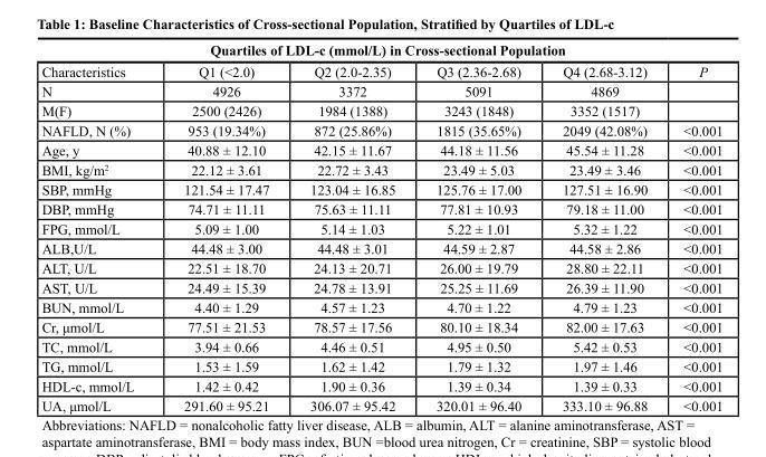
<table><thead><tr><td colspan="6">Quartiles of LDL-c (mmol/L) in Cross-sectional Population</td></tr><tr><td>Characteristics</td><td>Q1 (&lt;2.0)</td><td>Q2 (2.0-2.35)</td><td>Q3 (2.36-2.68)</td><td>Q4 (2.68-3.12)</td><td>P</td></tr></thead><tbody><tr><td>N</td><td>4926</td><td>3372</td><td>5091</td><td>4869</td><td></td></tr><tr><td>M(F)</td><td>2500 (2426)</td><td>1984 (1388)</td><td>3243 (1848)</td><td>3352 (1517)</td><td></td></tr><tr><td>NAFLD, N (%)</td><td>953 (19.34%)</td><td>872 (25.86%)</td><td>1815 (35.65%)</td><td>2049 (42.08%)</td><td>&lt;0.001</td></tr><tr><td>Age, y</td><td>40.88 ± 12.10</td><td>42.15 ± 11.67</td><td>44.18 ± 11.56</td><td>45.54 ± 11.28</td><td>&lt;0.001</td></tr><tr><td>BMI, kg/m<sup>2</sup></td><td>22.12 ± 3.61</td><td>22.72 ± 3.43</td><td>23.49 ± 5.03</td><td>23.49 ± 3.46</td><td>&lt;0.001</td></tr><tr><td>SBP, mmHg</td><td>121.54 ± 17.47</td><td>123.04 ± 16.85</td><td>125.76 ± 17.00</td><td>127.51 ± 16.90</td><td>&lt;0.001</td></tr><tr><td>DBP, mmHg</td><td>74.71 ± 11.11</td><td>75.63 ± 11.11</td><td>77.81 ± 10.93</td><td>79.18 ± 11.00</td><td>&lt;0.001</td></tr><tr><td>FPG, mmol/L</td><td>5.09 ± 1.00</td><td>5.14 ± 1.03</td><td>5.22 ± 1.01</td><td>5.32 ± 1.22</td><td>&lt;0.001</td></tr><tr><td>ALB,U/L</td><td>44.48 ± 3.00</td><td>44.48 ± 3.01</td><td>44.59 ± 2.87</td><td>44.58 ± 2.86</td><td>&lt;0.001</td></tr><tr><td>ALT, U/L</td><td>22.51 ± 18.70</td><td>24.13 ± 20.71</td><td>26.00 ± 19.79</td><td>28.80 ± 22.11</td><td>&lt;0.001</td></tr><tr><td>AST, U/L</td><td>24.49 ± 15.39</td><td>24.78 ± 13.91</td><td>25.25 ± 11.69</td><td>26.39 ± 11.90</td><td>&lt;0.001</td></tr><tr><td>BUN, mmol/L</td><td>4.40 ± 1.29</td><td>4.57 ± 1.23</td><td>4.70 ± 1.22</td><td>4.79 ± 1.23</td><td>&lt;0.001</td></tr><tr><td>Cr, μmol/L</td><td>77.51 ± 21.53</td><td>78.57 ± 17.56</td><td>80.10 ± 18.34</td><td>82.00 ± 17.63</td><td>&lt;0.001</td></tr><tr><td>TC, mmol/L</td><td>3.94 ± 0.66</td><td>4.46 ± 0.51</td><td>4.95 ± 0.50</td><td>5.42 ± 0.53</td><td>&lt;0.001</td></tr><tr><td>TG, mmol/L</td><td>1.53 ± 1.59</td><td>1.62 ± 1.42</td><td>1.79 ± 1.32</td><td>1.97 ± 1.46</td><td>&lt;0.001</td></tr><tr><td>HDL-c, mmol/L</td><td>1.42 ± 0.42</td><td>1.90 ± 0.36</td><td>1.39 ± 0.34</td><td>1.39 ± 0.33</td><td>&lt;0.001</td></tr><tr><td>UA, μmol/L</td><td>291.60 ± 95.21</td><td>306.07 ± 95.42</td><td>320.01 ± 96.40</td><td>333.10 ± 96.88</td><td>&lt;0.001</td></tr></tbody></table>